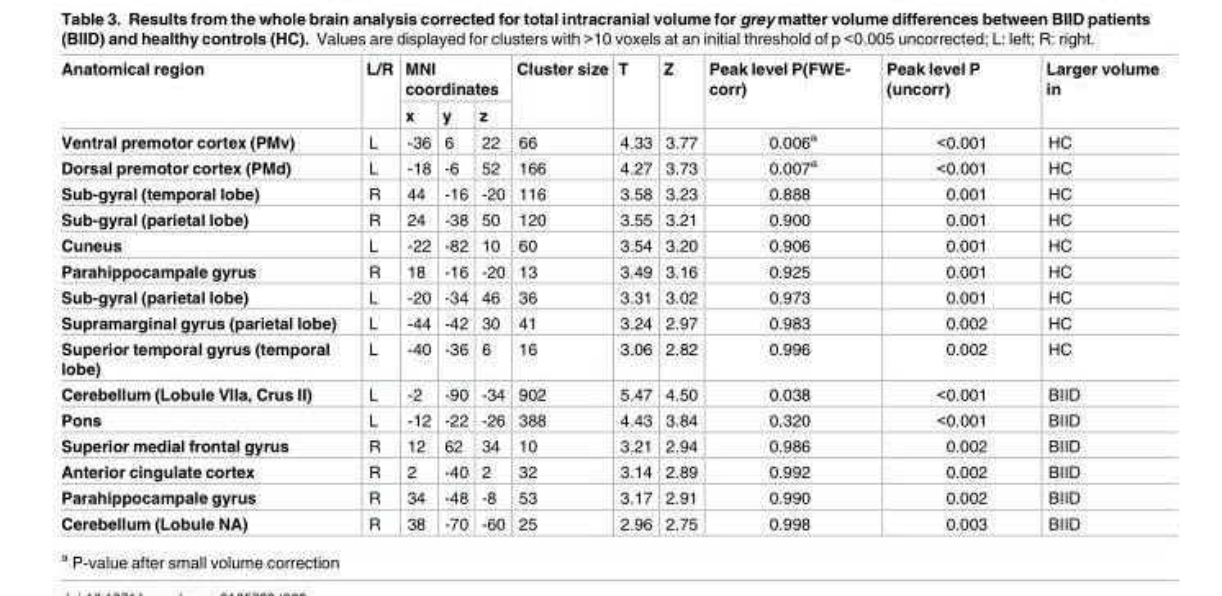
<table><thead><tr><td rowspan="2">Anatomical region</td><td rowspan="2">L/R</td><td colspan="3">MNI coordinates</td><td rowspan="2">Cluster size</td><td rowspan="2">T</td><td rowspan="2">Z</td><td rowspan="2">Peak level P(FWE- corr)</td><td rowspan="2">Peak level P (uncorr)</td><td rowspan="2">Larger volume in</td></tr><tr><td>x</td><td>y</td><td>z</td></tr></thead><tbody><tr><td>Ventral premotor cortex (PMv)</td><td>L</td><td>-36</td><td>6</td><td>22</td><td>66</td><td>4.33</td><td>3.77</td><td>0.006<sup>a</sup></td><td>&lt;0.001</td><td>HC</td></tr><tr><td>Dorsal premotor cortex (PMd)</td><td>L</td><td>-18</td><td>-6</td><td>52</td><td>166</td><td>4.27</td><td>3.73</td><td>0.007<sup>a</sup></td><td>&lt;0.001</td><td>HC</td></tr><tr><td>Sub-gyral (temporal lobe)</td><td>R</td><td>44</td><td>-16</td><td>-20</td><td>116</td><td>3.58</td><td>3.23</td><td>0.888</td><td>0.001</td><td>HC</td></tr><tr><td>Sub-gyral (parietal lobe)</td><td>R</td><td>24</td><td>-38</td><td>50</td><td>120</td><td>3.55</td><td>3.21</td><td>0.900</td><td>0.001</td><td>HC</td></tr><tr><td>Cuneus</td><td>L</td><td>-22</td><td>-82</td><td>10</td><td>60</td><td>3.54</td><td>3.20</td><td>0.906</td><td>0.001</td><td>HC</td></tr><tr><td>Parahippocampale gyrus</td><td>R</td><td>18</td><td>-16</td><td>-20</td><td>13</td><td>3.49</td><td>3.16</td><td>0.925</td><td>0.001</td><td>HC</td></tr><tr><td>Sub-gyral (parietal lobe)</td><td>L</td><td>-20</td><td>-34</td><td>46</td><td>36</td><td>3.31</td><td>3.02</td><td>0.973</td><td>0.001</td><td>HC</td></tr><tr><td>Supramarginal gyrus (parietal lobe)</td><td>L</td><td>-44</td><td>-42</td><td>30</td><td>41</td><td>3.24</td><td>2.97</td><td>0.983</td><td>0.002</td><td>HC</td></tr><tr><td>Superior temporal gyrus (temporal lobe)</td><td>L</td><td>-40</td><td>-36</td><td>6</td><td>16</td><td>3.06</td><td>2.82</td><td>0.996</td><td>0.002</td><td>HC</td></tr><tr><td>Cerebellum (Lobule VIIa, Crus II)</td><td>L</td><td>-2</td><td>-90</td><td>-34</td><td>902</td><td>5.47</td><td>4.50</td><td>0.038</td><td>&lt;0.001</td><td>BIID</td></tr><tr><td>Pons</td><td>L</td><td>-12</td><td>-22</td><td>-26</td><td>388</td><td>4.43</td><td>3.84</td><td>0.320</td><td>&lt;0.001</td><td>BIID</td></tr><tr><td>Superior medial frontal gyrus</td><td>R</td><td>12</td><td>62</td><td>34</td><td>10</td><td>3.21</td><td>2.94</td><td>0.986</td><td>0.002</td><td>BIID</td></tr><tr><td>Anterior cingulate cortex</td><td>R</td><td>2</td><td>-40</td><td>2</td><td>32</td><td>3.14</td><td>2.89</td><td>0.992</td><td>0.002</td><td>BIID</td></tr><tr><td>Parahippocampale gyrus</td><td>R</td><td>34</td><td>-48</td><td>-8</td><td>53</td><td>3.17</td><td>2.91</td><td>0.990</td><td>0.002</td><td>BIID</td></tr><tr><td>Cerebellum (Lobule NA)</td><td>R</td><td>38</td><td>-70</td><td>-60</td><td>25</td><td>2.96</td><td>2.75</td><td>0.998</td><td>0.003</td><td>BIID</td></tr></tbody></table>